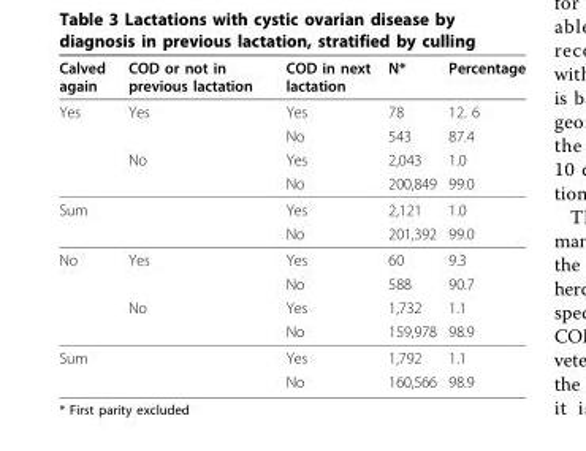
<table><thead><tr><td>Calved again</td><td>COD or not in previous lactation</td><td>COD in next lactation</td><td>N*</td><td>Percentage</td></tr></thead><tbody><tr><td rowspan="4">Yes</td><td>Yes</td><td>Yes</td><td>78</td><td>12. 6</td></tr><tr><td></td><td>No</td><td>543</td><td>87.4</td></tr><tr><td>No</td><td>Yes</td><td>2,043</td><td>1.0</td></tr><tr><td></td><td>No</td><td>200,849</td><td>99.0</td></tr><tr><td rowspan="2">Sum</td><td></td><td>Yes</td><td>2,121</td><td>1.0</td></tr><tr><td></td><td>No</td><td>201,392</td><td>99.0</td></tr><tr><td rowspan="4">No</td><td>Yes</td><td>Yes</td><td>60</td><td>9.3</td></tr><tr><td></td><td>No</td><td>588</td><td>90.7</td></tr><tr><td>No</td><td>Yes</td><td>1,732</td><td>1.1</td></tr><tr><td></td><td>No</td><td>159,978</td><td>98.9</td></tr><tr><td rowspan="2">Sum</td><td></td><td>Yes</td><td>1,792</td><td>1.1</td></tr><tr><td></td><td>No</td><td>160,566</td><td>98.9</td></tr></tbody></table>